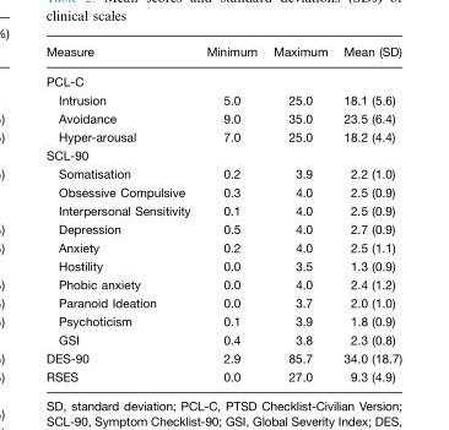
<table><thead><tr><td>Measure</td><td>Minimum</td><td>Maximum</td><td>Mean (SD)</td></tr></thead><tbody><tr><td colspan="4">PCL-C</td></tr><tr><td>Intrusion</td><td>5.0</td><td>25.0</td><td>18.1 (5.6)</td></tr><tr><td>Avoidance</td><td>9.0</td><td>35.0</td><td>23.5 (6.4)</td></tr><tr><td>Hyper-arousal</td><td>7.0</td><td>25.0</td><td>18.2 (4.4)</td></tr><tr><td colspan="4">SCL-90</td></tr><tr><td>Somatisation</td><td>0.2</td><td>3.9</td><td>2.2 (1.0)</td></tr><tr><td>Obsessive Compulsive</td><td>0.3</td><td>4.0</td><td>2.5 (0.9)</td></tr><tr><td>Interpersonal Sensitivity</td><td>0.1</td><td>4.0</td><td>2.5 (0.9)</td></tr><tr><td>Depression</td><td>0.5</td><td>4.0</td><td>2.7 (0.9)</td></tr><tr><td>Anxiety</td><td>0.2</td><td>4.0</td><td>2.5 (1.1)</td></tr><tr><td>Hostility</td><td>0.0</td><td>3.5</td><td>1.3 (0.9)</td></tr><tr><td>Phobic anxiety</td><td>0.0</td><td>4.0</td><td>2.4 (1.2)</td></tr><tr><td>Paranoid Ideation</td><td>0.0</td><td>3.7</td><td>2.0 (1.0)</td></tr><tr><td>Psychoticism</td><td>0.1</td><td>3.9</td><td>1.8 (0.9)</td></tr><tr><td>GSI</td><td>0.4</td><td>3.8</td><td>2.3 (0.8)</td></tr><tr><td>DES-90</td><td>2.9</td><td>85.7</td><td>34.0 (18.7)</td></tr><tr><td>RSES</td><td>0.0</td><td>27.0</td><td>9.3 (4.9)</td></tr></tbody></table>